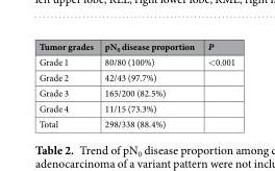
<table><thead><tr><td>Tumor grades</td><td>pN<sub>0</sub> disease proportion</td><td>P</td></tr></thead><tbody><tr><td>Grade 1</td><td>80/80 (100%)</td><td>&lt;0.001</td></tr><tr><td>Grade 2</td><td>42/43 (97.7%)</td><td></td></tr><tr><td>Grade 3</td><td>165/200 (82.5%)</td><td></td></tr><tr><td>Grade 4</td><td>11/15 (73.3%)</td><td></td></tr><tr><td>Total</td><td>298/338 (88.4%)</td><td></td></tr></tbody></table>